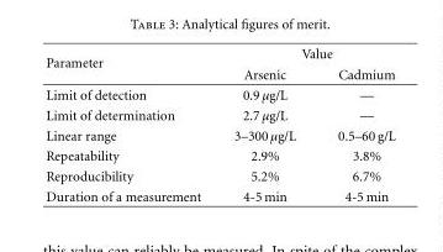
<table><thead><tr><td rowspan="2">Parameter</td><td colspan="2">Value</td></tr><tr><td>Arsenic</td><td>Cadmium</td></tr></thead><tbody><tr><td>Limit of detection</td><td>0.9 µg/L</td><td>—</td></tr><tr><td>Limit of determination</td><td>2.7 µg/L</td><td>—</td></tr><tr><td>Linear range</td><td>3–300 µg/L</td><td>0.5–60 g/L</td></tr><tr><td>Repeatability</td><td>2.9%</td><td>3.8%</td></tr><tr><td>Reproducibility</td><td>5.2%</td><td>6.7%</td></tr><tr><td>Duration of a measurement</td><td>4-5 min</td><td>4-5 min</td></tr></tbody></table>